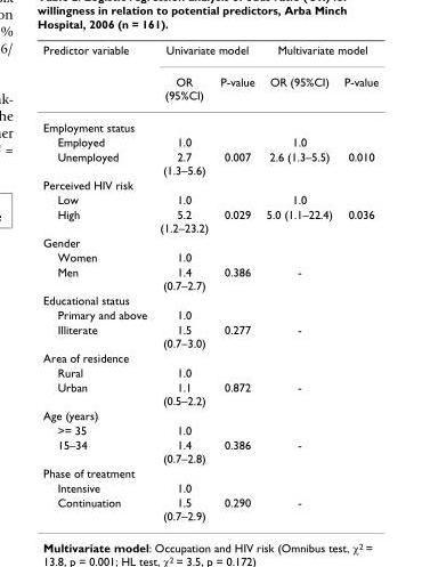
<table><thead><tr><td rowspan="2">Predictor variable</td><td colspan="2">Univariate model</td><td colspan="2">Multivariate model</td></tr><tr><td>OR (95%CI)</td><td>P-value</td><td>OR (95%CI)</td><td>P-value</td></tr></thead><tbody><tr><td colspan="5">Employment status</td></tr><tr><td>Employed</td><td>1.0</td><td></td><td>1.0</td><td></td></tr><tr><td>Unemployed</td><td>2.7 (1.3–5.6)</td><td>0.007</td><td>2.6 (1.3–5.5)</td><td>0.010</td></tr><tr><td colspan="5">Perceived HIV risk</td></tr><tr><td>Low</td><td>1.0</td><td></td><td>1.0</td><td></td></tr><tr><td>High</td><td>5.2 (1.2–23.2)</td><td>0.029</td><td>5.0 (1.1–22.4)</td><td>0.036</td></tr><tr><td colspan="5">Gender</td></tr><tr><td>Women</td><td>1.0</td><td></td><td></td><td></td></tr><tr><td>Men</td><td>1.4 (0.7–2.7)</td><td>0.386</td><td>-</td><td></td></tr><tr><td colspan="5">Educational status</td></tr><tr><td>Primary and above</td><td>1.0</td><td></td><td></td><td></td></tr><tr><td>Illiterate</td><td>1.5 (0.7–3.0)</td><td>0.277</td><td>-</td><td></td></tr><tr><td colspan="5">Area of residence</td></tr><tr><td>Rural</td><td>1.0</td><td></td><td></td><td></td></tr><tr><td>Urban</td><td>1.1 (0.5–2.2)</td><td>0.872</td><td>-</td><td></td></tr><tr><td colspan="5">Age (years)</td></tr><tr><td>&gt;= 35</td><td>1.0</td><td></td><td></td><td></td></tr><tr><td>15–34</td><td>1.4 (0.7–2.8)</td><td>0.386</td><td>-</td><td></td></tr><tr><td colspan="5">Phase of treatment</td></tr><tr><td>Intensive</td><td>1.0</td><td></td><td></td><td></td></tr><tr><td>Continuation</td><td>1.5 (0.7–2.9)</td><td>0.290</td><td>-</td><td></td></tr></tbody></table>